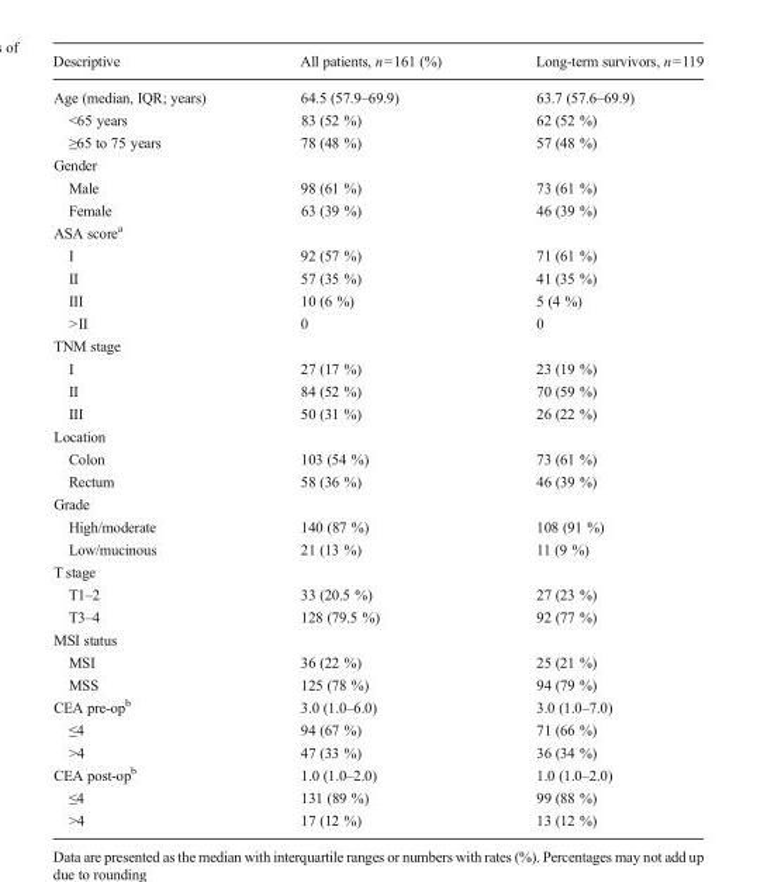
<table><thead><tr><td>Descriptive</td><td>All patients, n=161 (%)</td><td>Long-term survivors, n=119</td></tr></thead><tbody><tr><td>Age (median, IQR; years)</td><td>64.5 (57.9–69.9)</td><td>63.7 (57.6–69.9)</td></tr><tr><td>&lt;65 years</td><td>83 (52 %)</td><td>62 (52 %)</td></tr><tr><td>≥65 to 75 years</td><td>78 (48 %)</td><td>57 (48 %)</td></tr><tr><td colspan="3">Gender</td></tr><tr><td>Male</td><td>98 (61 %)</td><td>73 (61 %)</td></tr><tr><td>Female</td><td>63 (39 %)</td><td>46 (39 %)</td></tr><tr><td colspan="3">ASA score<sup>a</sup></td></tr><tr><td>I</td><td>92 (57 %)</td><td>71 (61 %)</td></tr><tr><td>II</td><td>57 (35 %)</td><td>41 (35 %)</td></tr><tr><td>III</td><td>10 (6 %)</td><td>5 (4 %)</td></tr><tr><td>&gt;II</td><td>0</td><td>0</td></tr><tr><td colspan="3">TNM stage</td></tr><tr><td>I</td><td>27 (17 %)</td><td>23 (19 %)</td></tr><tr><td>II</td><td>84 (52 %)</td><td>70 (59 %)</td></tr><tr><td>III</td><td>50 (31 %)</td><td>26 (22 %)</td></tr><tr><td colspan="3">Location</td></tr><tr><td>Colon</td><td>103 (54 %)</td><td>73 (61 %)</td></tr><tr><td>Rectum</td><td>58 (36 %)</td><td>46 (39 %)</td></tr><tr><td colspan="3">Grade</td></tr><tr><td>High/moderate</td><td>140 (87 %)</td><td>108 (91 %)</td></tr><tr><td>Low/mucinous</td><td>21 (13 %)</td><td>11 (9 %)</td></tr><tr><td colspan="3">T stage</td></tr><tr><td>T1–2</td><td>33 (20.5 %)</td><td>27 (23 %)</td></tr><tr><td>T3–4</td><td>128 (79.5 %)</td><td>92 (77 %)</td></tr><tr><td colspan="3">MSI status</td></tr><tr><td>MSI</td><td>36 (22 %)</td><td>25 (21 %)</td></tr><tr><td>MSS</td><td>125 (78 %)</td><td>94 (79 %)</td></tr><tr><td>CEA pre-op<sup>b</sup></td><td>3.0 (1.0–6.0)</td><td>3.0 (1.0–7.0)</td></tr><tr><td>≤4</td><td>94 (67 %)</td><td>71 (66 %)</td></tr><tr><td>&gt;4</td><td>47 (33 %)</td><td>36 (34 %)</td></tr><tr><td>CEA post-op<sup>b</sup></td><td>1.0 (1.0–2.0)</td><td>1.0 (1.0–2.0)</td></tr><tr><td>≤4</td><td>131 (89 %)</td><td>99 (88 %)</td></tr><tr><td>&gt;4</td><td>17 (12 %)</td><td>13 (12 %)</td></tr></tbody></table>